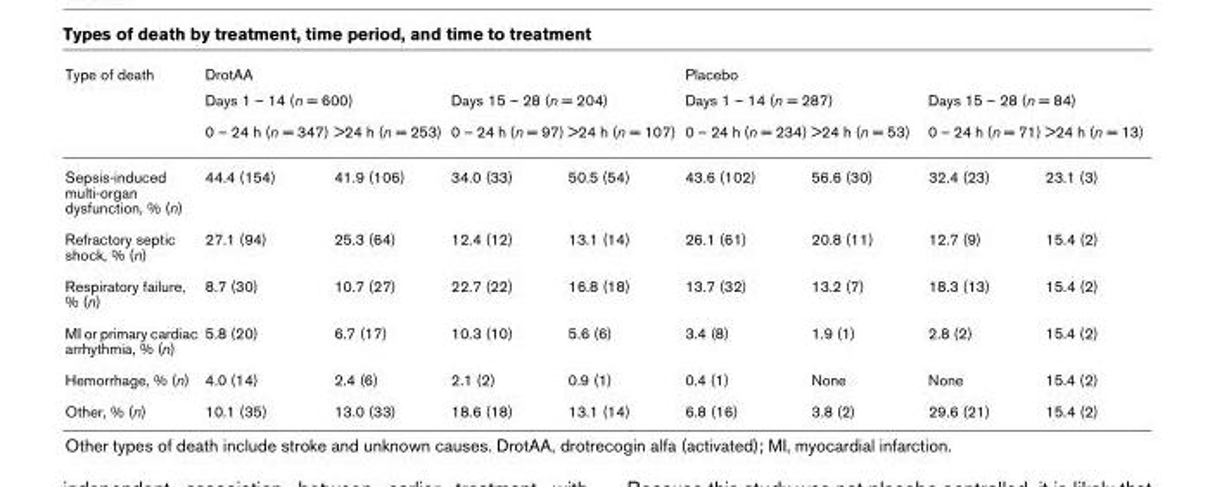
<table><thead><tr><td rowspan="3">Type of death</td><td colspan="4">DrotAA</td><td colspan="4">Placebo</td></tr><tr><td colspan="2">Days 1 – 14 (n = 600)</td><td colspan="2">Days 15 – 28 (n = 204)</td><td colspan="2">Days 1 – 14 (n = 287)</td><td colspan="2">Days 15 – 28 (n = 84)</td></tr><tr><td>0 – 24 h (n = 347)</td><td>&gt;24 h (n = 253)</td><td>0 – 24 h (n = 97)</td><td>&gt;24 h (n = 107)</td><td>0 – 24 h (n = 234)</td><td>&gt;24 h (n = 53)</td><td>0 – 24 h (n = 71)</td><td>&gt;24 h (n = 13)</td></tr></thead><tbody><tr><td>Sepsis-induced multi-organ dysfunction, % (n)</td><td>44.4 (154)</td><td>41.9 (106)</td><td>34.0 (33)</td><td>50.5 (54)</td><td>43.6 (102)</td><td>56.6 (30)</td><td>32.4 (23)</td><td>23.1 (3)</td></tr><tr><td>Refractory septic shock, % (n)</td><td>27.1 (94)</td><td>25.3 (64)</td><td>12.4 (12)</td><td>13.1 (14)</td><td>26.1 (61)</td><td>20.8 (11)</td><td>12.7 (9)</td><td>15.4 (2)</td></tr><tr><td>Respiratory failure, % (n)</td><td>8.7 (30)</td><td>10.7 (27)</td><td>22.7 (22)</td><td>16.8 (18)</td><td>13.7 (32)</td><td>13.2 (7)</td><td>18.3 (13)</td><td>15.4 (2)</td></tr><tr><td>MI or primary cardiac arrhythmia, % (n)</td><td>5.8 (20)</td><td>6.7 (17)</td><td>10.3 (10)</td><td>5.6 (6)</td><td>3.4 (8)</td><td>1.9 (1)</td><td>2.8 (2)</td><td>15.4 (2)</td></tr><tr><td>Hemorrhage, % (n)</td><td>4.0 (14)</td><td>2.4 (6)</td><td>2.1 (2)</td><td>0.9 (1)</td><td>0.4 (1)</td><td>None</td><td>None</td><td>15.4 (2)</td></tr><tr><td>Other, % (n)</td><td>10.1 (35)</td><td>13.0 (33)</td><td>18.6 (18)</td><td>13.1 (14)</td><td>6.8 (16)</td><td>3.8 (2)</td><td>29.6 (21)</td><td>15.4 (2)</td></tr></tbody></table>